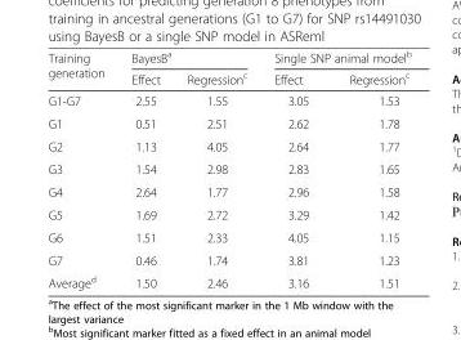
<table><thead><tr><td rowspan="2">Training generation</td><td colspan="2">BayesB<sup>a</sup></td><td colspan="2">Single SNP animal model<sup>b</sup></td></tr><tr><td>Effect</td><td>Regression<sup>c</sup></td><td>Effect</td><td>Regression<sup>c</sup></td></tr></thead><tbody><tr><td>G1-G7</td><td>2.55</td><td>1.55</td><td>3.05</td><td>1.53</td></tr><tr><td>G1</td><td>0.51</td><td>2.51</td><td>2.62</td><td>1.78</td></tr><tr><td>G2</td><td>1.13</td><td>4.05</td><td>2.64</td><td>1.77</td></tr><tr><td>G3</td><td>1.54</td><td>2.98</td><td>2.83</td><td>1.65</td></tr><tr><td>G4</td><td>2.64</td><td>1.77</td><td>2.96</td><td>1.58</td></tr><tr><td>G5</td><td>1.69</td><td>2.72</td><td>3.29</td><td>1.42</td></tr><tr><td>G6</td><td>1.51</td><td>2.33</td><td>4.05</td><td>1.15</td></tr><tr><td>G7</td><td>0.46</td><td>1.74</td><td>3.81</td><td>1.23</td></tr><tr><td>Average<sup>d</sup></td><td>1.50</td><td>2.46</td><td>3.16</td><td>1.51</td></tr></tbody></table>